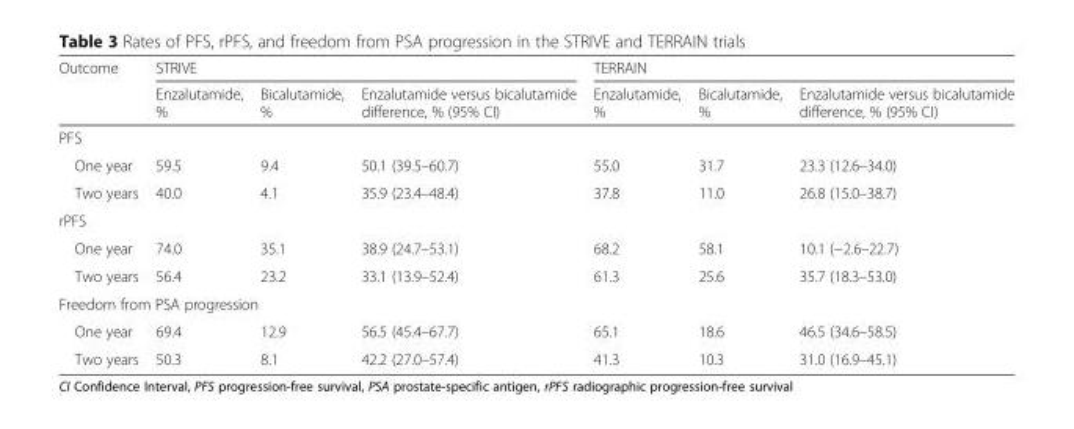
<table><thead><tr><td rowspan="2">Outcome</td><td colspan="3">STRIVE</td><td colspan="3">TERRAIN</td></tr><tr><td>Enzalutamide, %</td><td>Bicalutamide, %</td><td>Enzalutamide versus bicalutamide difference, % (95% CI)</td><td>Enzalutamide, %</td><td>Bicalutamide, %</td><td>Enzalutamide versus bicalutamide difference, % (95% CI)</td></tr></thead><tbody><tr><td colspan="7">PFS</td></tr><tr><td>One year</td><td>59.5</td><td>9.4</td><td>50.1 (39.5–60.7)</td><td>55.0</td><td>31.7</td><td>23.3 (12.6–34.0)</td></tr><tr><td>Two years</td><td>40.0</td><td>4.1</td><td>35.9 (23.4–48.4)</td><td>37.8</td><td>11.0</td><td>26.8 (15.0–38.7)</td></tr><tr><td colspan="7">rPFS</td></tr><tr><td>One year</td><td>74.0</td><td>35.1</td><td>38.9 (24.7–53.1)</td><td>68.2</td><td>58.1</td><td>10.1 (−2.6–22.7)</td></tr><tr><td>Two years</td><td>56.4</td><td>23.2</td><td>33.1 (13.9–52.4)</td><td>61.3</td><td>25.6</td><td>35.7 (18.3–53.0)</td></tr><tr><td colspan="7">Freedom from PSA progression</td></tr><tr><td>One year</td><td>69.4</td><td>12.9</td><td>56.5 (45.4–67.7)</td><td>65.1</td><td>18.6</td><td>46.5 (34.6–58.5)</td></tr><tr><td>Two years</td><td>50.3</td><td>8.1</td><td>42.2 (27.0–57.4)</td><td>41.3</td><td>10.3</td><td>31.0 (16.9–45.1)</td></tr></tbody></table>